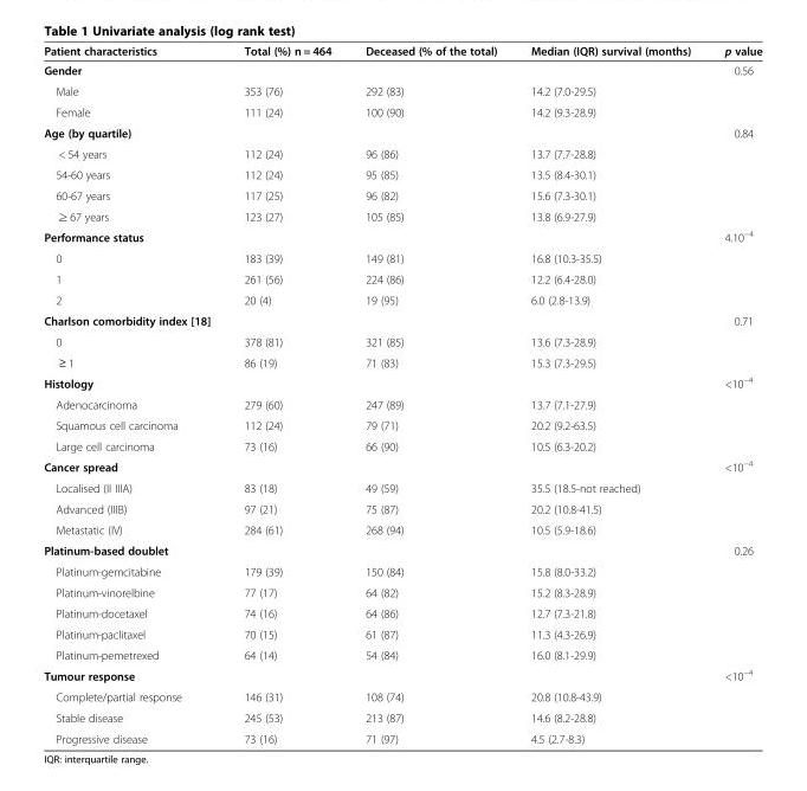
<table><thead><tr><td>Patient characteristics</td><td>Total (%) n = 464</td><td>Deceased (% of the total)</td><td>Median (IQR) survival (months)</td><td>p value</td></tr></thead><tbody><tr><td>Gender</td><td></td><td></td><td></td><td>0.56</td></tr><tr><td>Male</td><td>353 (76)</td><td>292 (83)</td><td>14.2 (7.0-29.5)</td><td></td></tr><tr><td>Female</td><td>111 (24)</td><td>100 (90)</td><td>14.2 (9.3-28.9)</td><td></td></tr><tr><td>Age (by quartile)</td><td></td><td></td><td></td><td>0.84</td></tr><tr><td>&lt; 54 years</td><td>112 (24)</td><td>96 (86)</td><td>13.7 (7.7-28.8)</td><td></td></tr><tr><td>54-60 years</td><td>112 (24)</td><td>95 (85)</td><td>13.5 (8.4-30.1)</td><td></td></tr><tr><td>60-67 years</td><td>117 (25)</td><td>96 (82)</td><td>15.6 (7.3-30.1)</td><td></td></tr><tr><td>≥ 67 years</td><td>123 (27)</td><td>105 (85)</td><td>13.8 (6.9-27.9)</td><td></td></tr><tr><td>Performance status</td><td></td><td></td><td></td><td>4.10<sup>−4</sup></td></tr><tr><td>0</td><td>183 (39)</td><td>149 (81)</td><td>16.8 (10.3-35.5)</td><td></td></tr><tr><td>1</td><td>261 (56)</td><td>224 (86)</td><td>12.2 (6.4-28.0)</td><td></td></tr><tr><td>2</td><td>20 (4)</td><td>19 (95)</td><td>6.0 (2.8-13.9)</td><td></td></tr><tr><td>Charlson comorbidity index [18]</td><td></td><td></td><td></td><td>0.71</td></tr><tr><td>0</td><td>378 (81)</td><td>321 (85)</td><td>13.6 (7.3-28.9)</td><td></td></tr><tr><td>≥ 1</td><td>86 (19)</td><td>71 (83)</td><td>15.3 (7.3-29.5)</td><td></td></tr><tr><td>Histology</td><td></td><td></td><td></td><td>&lt;10<sup>−4</sup></td></tr><tr><td>Adenocarcinoma</td><td>279 (60)</td><td>247 (89)</td><td>13.7 (7.1-27.9)</td><td></td></tr><tr><td>Squamous cell carcinoma</td><td>112 (24)</td><td>79 (71)</td><td>20.2 (9.2-63.5)</td><td></td></tr><tr><td>Large cell carcinoma</td><td>73 (16)</td><td>66 (90)</td><td>10.5 (6.3-20.2)</td><td></td></tr><tr><td>Cancer spread</td><td></td><td></td><td></td><td>&lt;10<sup>−4</sup></td></tr><tr><td>Localised (II IIIA)</td><td>83 (18)</td><td>49 (59)</td><td>35.5 (18.5-not reached)</td><td></td></tr><tr><td>Advanced (IIIB)</td><td>97 (21)</td><td>75 (87)</td><td>20.2 (10.8-41.5)</td><td></td></tr><tr><td>Metastatic (IV)</td><td>284 (61)</td><td>268 (94)</td><td>10.5 (5.9-18.6)</td><td></td></tr><tr><td>Platinum-based doublet</td><td></td><td></td><td></td><td>0.26</td></tr><tr><td>Platinum-gemcitabine</td><td>179 (39)</td><td>150 (84)</td><td>15.8 (8.0-33.2)</td><td></td></tr><tr><td>Platinum-vinorelbine</td><td>77 (17)</td><td>64 (82)</td><td>15.2 (8.3-28.9)</td><td></td></tr><tr><td>Platinum-docetaxel</td><td>74 (16)</td><td>64 (86)</td><td>12.7 (7.3-21.8)</td><td></td></tr><tr><td>Platinum-paclitaxel</td><td>70 (15)</td><td>61 (87)</td><td>11.3 (4.3-26.9)</td><td></td></tr><tr><td>Platinum-pemetrexed</td><td>64 (14)</td><td>54 (84)</td><td>16.0 (8.1-29.9)</td><td></td></tr><tr><td>Tumour response</td><td></td><td></td><td></td><td>&lt;10<sup>−4</sup></td></tr><tr><td>Complete/partial response</td><td>146 (31)</td><td>108 (74)</td><td>20.8 (10.8-43.9)</td><td></td></tr><tr><td>Stable disease</td><td>245 (53)</td><td>213 (87)</td><td>14.6 (8.2-28.8)</td><td></td></tr><tr><td>Progressive disease</td><td>73 (16)</td><td>71 (97)</td><td>4.5 (2.7-8.3)</td><td></td></tr></tbody></table>